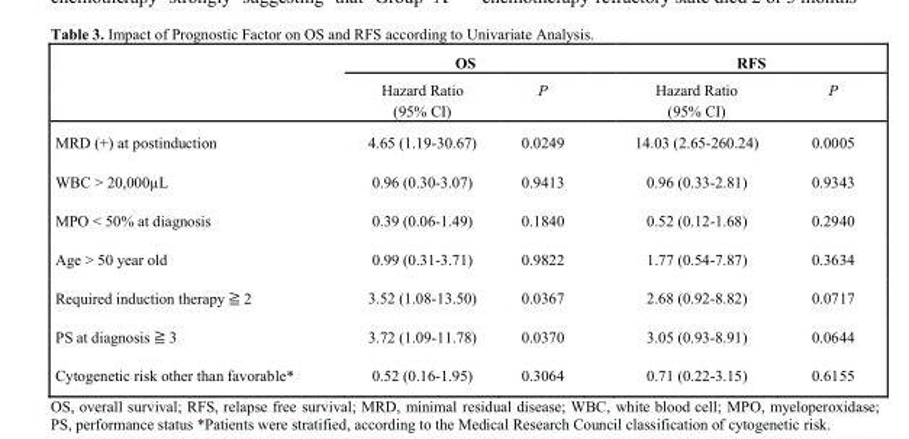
<table><thead><tr><td rowspan="2"></td><td colspan="2">OS</td><td colspan="2">RFS</td></tr><tr><td>Hazard Ratio (95% CI)</td><td>P</td><td>Hazard Ratio (95% CI)</td><td>P</td></tr></thead><tbody><tr><td>MRD (+) at postinduction</td><td>4.65 (1.19-30.67)</td><td>0.0249</td><td>14.03 (2.65-260.24)</td><td>0.0005</td></tr><tr><td>WBC &gt; 20,000µL</td><td>0.96 (0.30-3.07)</td><td>0.9413</td><td>0.96 (0.33-2.81)</td><td>0.9343</td></tr><tr><td>MPO &lt; 50% at diagnosis</td><td>0.39 (0.06-1.49)</td><td>0.1840</td><td>0.52 (0.12-1.68)</td><td>0.2940</td></tr><tr><td>Age &gt; 50 year old</td><td>0.99 (0.31-3.71)</td><td>0.9822</td><td>1.77 (0.54-7.87)</td><td>0.3634</td></tr><tr><td>Required induction therapy ≧ 2</td><td>3.52 (1.08-13.50)</td><td>0.0367</td><td>2.68 (0.92-8.82)</td><td>0.0717</td></tr><tr><td>PS at diagnosis ≧ 3</td><td>3.72 (1.09-11.78)</td><td>0.0370</td><td>3.05 (0.93-8.91)</td><td>0.0644</td></tr><tr><td>Cytogenetic risk other than favorable*</td><td>0.52 (0.16-1.95)</td><td>0.3064</td><td>0.71 (0.22-3.15)</td><td>0.6155</td></tr></tbody></table>